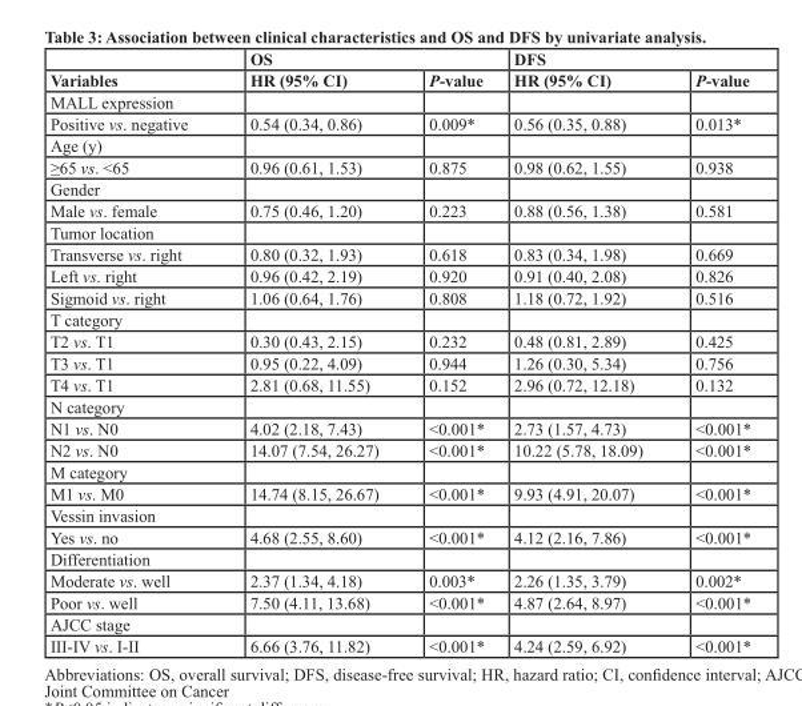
<table><thead><tr><td rowspan="2">Variables</td><td colspan="2">OS</td><td colspan="2">DFS</td></tr><tr><td>HR (95% CI)</td><td>P-value</td><td>HR (95% CI)</td><td>P-value</td></tr></thead><tbody><tr><td colspan="5">MALL expression</td></tr><tr><td>Positive vs. negative</td><td>0.54 (0.34, 0.86)</td><td>0.009*</td><td>0.56 (0.35, 0.88)</td><td>0.013*</td></tr><tr><td colspan="5">Age (y)</td></tr><tr><td>≥65 vs. &lt;65</td><td>0.96 (0.61, 1.53)</td><td>0.875</td><td>0.98 (0.62, 1.55)</td><td>0.938</td></tr><tr><td colspan="5">Gender</td></tr><tr><td>Male vs. female</td><td>0.75 (0.46, 1.20)</td><td>0.223</td><td>0.88 (0.56, 1.38)</td><td>0.581</td></tr><tr><td colspan="5">Tumor location</td></tr><tr><td>Transverse vs. right</td><td>0.80 (0.32, 1.93)</td><td>0.618</td><td>0.83 (0.34, 1.98)</td><td>0.669</td></tr><tr><td>Left vs. right</td><td>0.96 (0.42, 2.19)</td><td>0.920</td><td>0.91 (0.40, 2.08)</td><td>0.826</td></tr><tr><td>Sigmoid vs. right</td><td>1.06 (0.64, 1.76)</td><td>0.808</td><td>1.18 (0.72, 1.92)</td><td>0.516</td></tr><tr><td colspan="5">T category</td></tr><tr><td>T2 vs. T1</td><td>0.30 (0.43, 2.15)</td><td>0.232</td><td>0.48 (0.81, 2.89)</td><td>0.425</td></tr><tr><td>T3 vs. T1</td><td>0.95 (0.22, 4.09)</td><td>0.944</td><td>1.26 (0.30, 5.34)</td><td>0.756</td></tr><tr><td>T4 vs. T1</td><td>2.81 (0.68, 11.55)</td><td>0.152</td><td>2.96 (0.72, 12.18)</td><td>0.132</td></tr><tr><td colspan="5">N category</td></tr><tr><td>N1 vs. N0</td><td>4.02 (2.18, 7.43)</td><td>&lt;0.001*</td><td>2.73 (1.57, 4.73)</td><td>&lt;0.001*</td></tr><tr><td>N2 vs. N0</td><td>14.07 (7.54, 26.27)</td><td>&lt;0.001*</td><td>10.22 (5.78, 18.09)</td><td>&lt;0.001*</td></tr><tr><td colspan="5">M category</td></tr><tr><td>M1 vs. M0</td><td>14.74 (8.15, 26.67)</td><td>&lt;0.001*</td><td>9.93 (4.91, 20.07)</td><td>&lt;0.001*</td></tr><tr><td colspan="5">Vessin invasion</td></tr><tr><td>Yes vs. no</td><td>4.68 (2.55, 8.60)</td><td>&lt;0.001*</td><td>4.12 (2.16, 7.86)</td><td>&lt;0.001*</td></tr><tr><td colspan="5">Differentiation</td></tr><tr><td>Moderate vs. well</td><td>2.37 (1.34, 4.18)</td><td>0.003*</td><td>2.26 (1.35, 3.79)</td><td>0.002*</td></tr><tr><td>Poor vs. well</td><td>7.50 (4.11, 13.68)</td><td>&lt;0.001*</td><td>4.87 (2.64, 8.97)</td><td>&lt;0.001*</td></tr><tr><td colspan="5">AJCC stage</td></tr><tr><td>III-IV vs. I-II</td><td>6.66 (3.76, 11.82)</td><td>&lt;0.001*</td><td>4.24 (2.59, 6.92)</td><td>&lt;0.001*</td></tr></tbody></table>